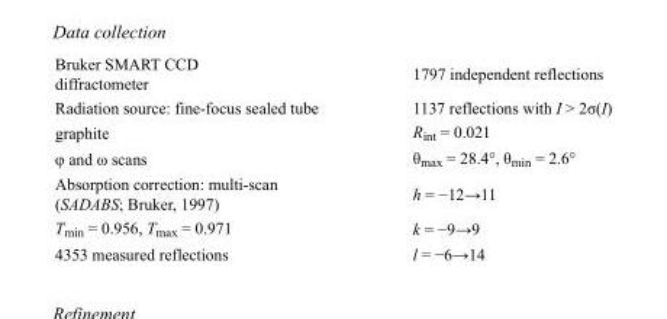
<table><tbody><tr><td>Bruker SMART CCD diffractometer</td><td>1797 independent reflections</td></tr><tr><td>Radiation source: fine-focus sealed tube</td><td>1137 reflections with I &gt; 2σ(I)</td></tr><tr><td>graphite</td><td>R<sub>int</sub> = 0.021</td></tr><tr><td>φ and ω scans</td><td>θ<sub>max</sub> = 28.4°, θ<sub>min</sub> = 2.6°</td></tr><tr><td>Absorption correction: multi-scan (SADABS; Bruker, 1997)</td><td>h = −12→11</td></tr><tr><td>T<sub>min</sub> = 0.956, T<sub>max</sub> = 0.971</td><td>k = −9→9</td></tr><tr><td>4353 measured reflections</td><td>l = −6→14</td></tr></tbody></table>